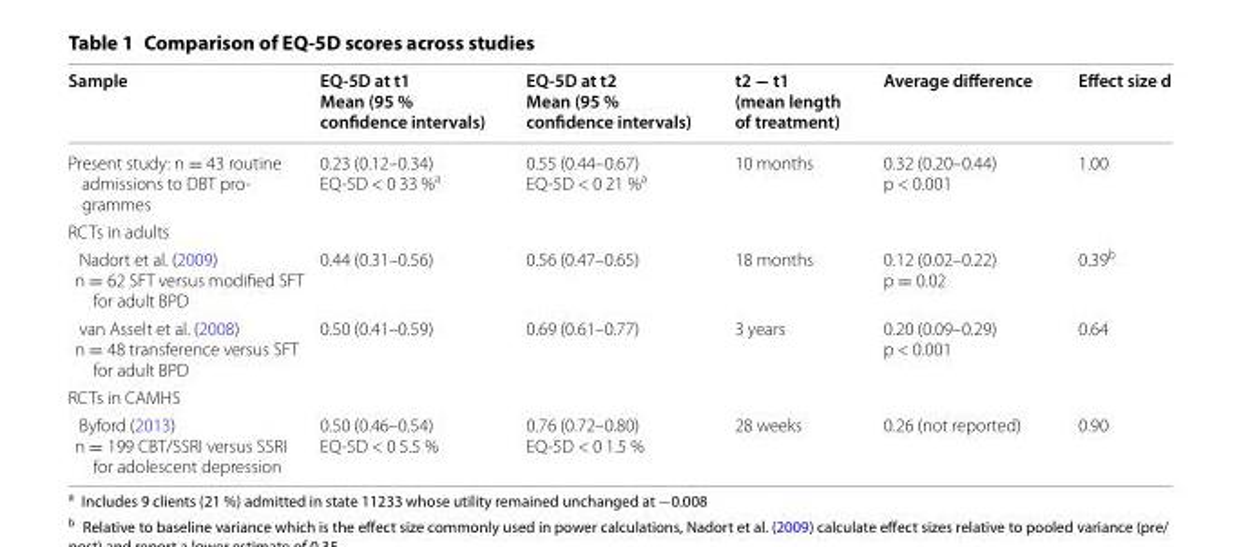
<table><thead><tr><td>Sample</td><td>EQ-5D at t1 Mean (95 % confidence intervals)</td><td>EQ-5D at t2 Mean (95 % confidence intervals)</td><td>t2 − t1 (mean length of treatment)</td><td>Average difference</td><td>Effect size d</td></tr></thead><tbody><tr><td>Present study: n = 43 routine admissions to DBT pro- grammes</td><td>0.23 (0.12–0.34) EQ-5D &lt; 0 33 %<sup>a</sup></td><td>0.55 (0.44–0.67) EQ-5D &lt; 0 21 %<sup>a</sup></td><td>10 months</td><td>0.32 (0.20–0.44) p &lt; 0.001</td><td>1.00</td></tr><tr><td colspan="6">RCTs in adults</td></tr><tr><td>Nadort et al. (2009) n = 62 SFT versus modified SFT for adult BPD</td><td>0.44 (0.31–0.56)</td><td>0.56 (0.47–0.65)</td><td>18 months</td><td>0.12 (0.02–0.22) p = 0.02</td><td>0.39<sup>b</sup></td></tr><tr><td>van Asselt et al. (2008) n = 48 transference versus SFT for adult BPD</td><td>0.50 (0.41–0.59)</td><td>0.69 (0.61–0.77)</td><td>3 years</td><td>0.20 (0.09–0.29) p &lt; 0.001</td><td>0.64</td></tr><tr><td colspan="6">RCTs in CAMHS</td></tr><tr><td>Byford (2013) n = 199 CBT/SSRI versus SSRI for adolescent depression</td><td>0.50 (0.46–0.54) EQ-5D &lt; 0 5.5 %</td><td>0.76 (0.72–0.80) EQ-5D &lt; 0 1.5 %</td><td>28 weeks</td><td>0.26 (not reported)</td><td>0.90</td></tr></tbody></table>